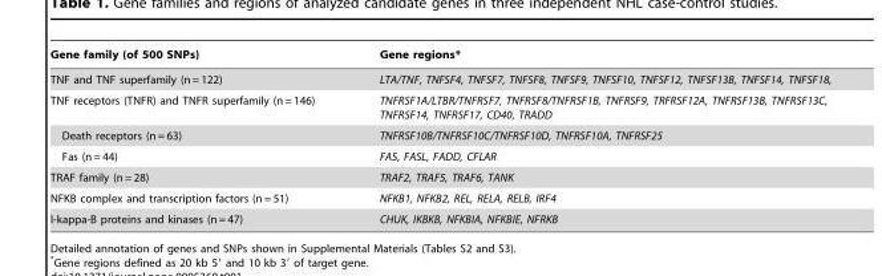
<table><thead><tr><td>Gene family (of 500 SNPs)</td><td>Gene regions*</td></tr></thead><tbody><tr><td>TNF and TNF superfamily (n = 122)</td><td>LTA/TNF, TNFSF4, TNFSF7, TNFSF8, TNFSF9, TNFSF10, TNFSF12, TNFSF13B, TNFSF14, TNFSF18,</td></tr><tr><td>TNF receptors (TNFR) and TNFR superfamily (n = 146)</td><td>TNFRSF1A/LTBR/TNFRSF7, TNFRSF8/TNFRSF1B, TNFRSF9, TRFRSF12A, TNFRSF13B, TNFRSF13C, TNFRSF14, TNFRSF17, CD40, TRADD</td></tr><tr><td>Death receptors (n = 63)</td><td>TNFRSF10B/TNFRSF10C/TNFRSF10D, TNFRSF10A, TNFRSF25</td></tr><tr><td>Fas (n = 44)</td><td>FAS, FASL, FADD, CFLAR</td></tr><tr><td>TRAF family (n = 28)</td><td>TRAF2, TRAF5, TRAF6, TANK</td></tr><tr><td>NFKB complex and transcription factors (n = 51)</td><td>NFKB1, NFKB2, REL, RELA, RELB, IRF4</td></tr><tr><td>I-kappa-B proteins and kinases (n = 47)</td><td>CHUK, IKBKB, NFKBIA, NFKBIE, NFRKB</td></tr></tbody></table>